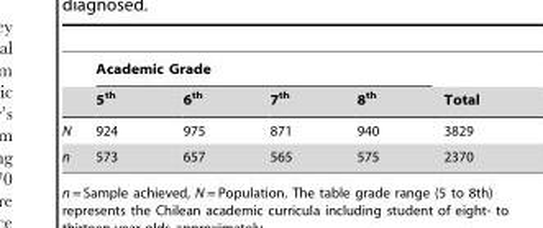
<table><thead><tr><td rowspan="2"></td><td colspan="4">Academic Grade</td><td rowspan="2">Total</td></tr><tr><td>5<sup>th</sup></td><td>6<sup>th</sup></td><td>7<sup>th</sup></td><td>8<sup>th</sup></td></tr></thead><tbody><tr><td>N</td><td>924</td><td>975</td><td>871</td><td>940</td><td>3829</td></tr><tr><td>n</td><td>573</td><td>657</td><td>565</td><td>575</td><td>2370</td></tr></tbody></table>